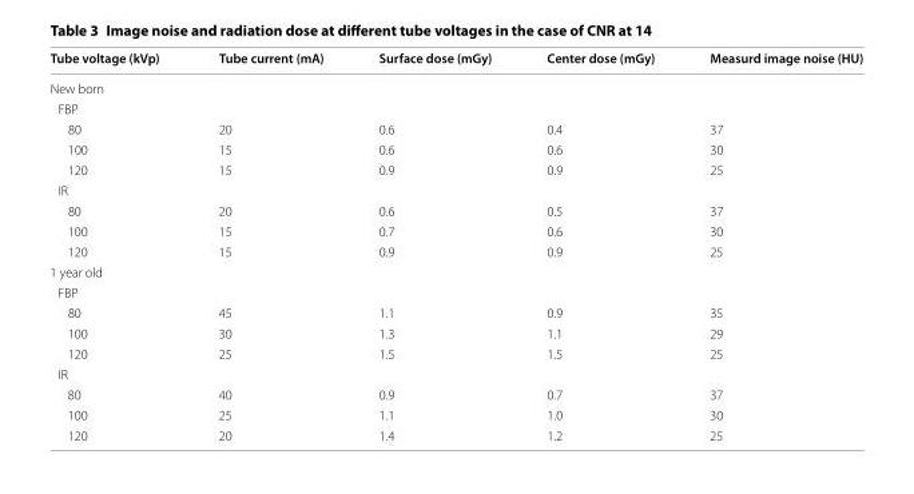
<table><thead><tr><td>Tube voltage (kVp)</td><td>Tube current (mA)</td><td>Surface dose (mGy)</td><td>Center dose (mGy)</td><td>Measurd image noise (HU)</td></tr></thead><tbody><tr><td colspan="5">New born</td></tr><tr><td colspan="5">FBP</td></tr><tr><td>80</td><td>20</td><td>0.6</td><td>0.4</td><td>37</td></tr><tr><td>100</td><td>15</td><td>0.6</td><td>0.6</td><td>30</td></tr><tr><td>120</td><td>15</td><td>0.9</td><td>0.9</td><td>25</td></tr><tr><td colspan="5">IR</td></tr><tr><td>80</td><td>20</td><td>0.6</td><td>0.5</td><td>37</td></tr><tr><td>100</td><td>15</td><td>0.7</td><td>0.6</td><td>30</td></tr><tr><td>120</td><td>15</td><td>0.9</td><td>0.9</td><td>25</td></tr><tr><td colspan="5">1 year old</td></tr><tr><td colspan="5">FBP</td></tr><tr><td>80</td><td>45</td><td>1.1</td><td>0.9</td><td>35</td></tr><tr><td>100</td><td>30</td><td>1.3</td><td>1.1</td><td>29</td></tr><tr><td>120</td><td>25</td><td>1.5</td><td>1.5</td><td>25</td></tr><tr><td colspan="5">IR</td></tr><tr><td>80</td><td>40</td><td>0.9</td><td>0.7</td><td>37</td></tr><tr><td>100</td><td>25</td><td>1.1</td><td>1.0</td><td>30</td></tr><tr><td>120</td><td>20</td><td>1.4</td><td>1.2</td><td>25</td></tr></tbody></table>